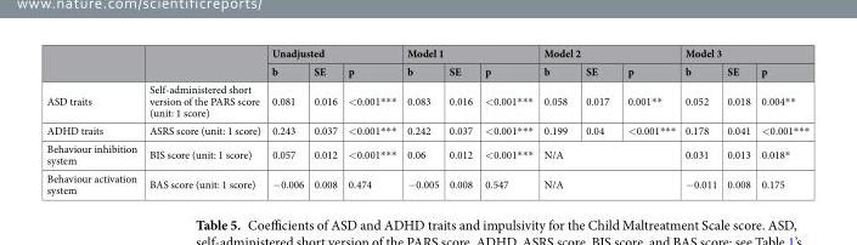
<table><thead><tr><td rowspan="2"></td><td rowspan="2"></td><td colspan="3">Unadjusted</td><td colspan="3">Model 1</td><td colspan="3">Model 2</td><td colspan="3">Model 3</td></tr><tr><td>b</td><td>SE</td><td>p</td><td>b</td><td>SE</td><td>p</td><td>b</td><td>SE</td><td>p</td><td>b</td><td>SE</td><td>p</td></tr></thead><tbody><tr><td>ASD traits</td><td>Self-administered short version of the PARS score (unit: 1 score)</td><td>0.081</td><td>0.016</td><td>&lt;0.001***</td><td>0.083</td><td>0.016</td><td>&lt;0.001***</td><td>0.058</td><td>0.017</td><td>0.001**</td><td>0.052</td><td>0.018</td><td>0.004**</td></tr><tr><td>ADHD traits</td><td>ASRS score (unit: 1 score)</td><td>0.243</td><td>0.037</td><td>&lt;0.001***</td><td>0.242</td><td>0.037</td><td>&lt;0.001***</td><td>0.199</td><td>0.04</td><td>&lt;0.001***</td><td>0.178</td><td>0.041</td><td>&lt;0.001***</td></tr><tr><td>Behaviour inhibition system</td><td>BIS score (unit: 1 score)</td><td>0.057</td><td>0.012</td><td>&lt;0.001***</td><td>0.06</td><td>0.012</td><td>&lt;0.001***</td><td colspan="3">N/A</td><td>0.031</td><td>0.013</td><td>0.018*</td></tr><tr><td>Behaviour activation system</td><td>BAS score (unit: 1 score)</td><td>−0.006</td><td>0.008</td><td>0.474</td><td>−0.005</td><td>0.008</td><td>0.547</td><td colspan="3">N/A</td><td>−0.011</td><td>0.008</td><td>0.175</td></tr></tbody></table>